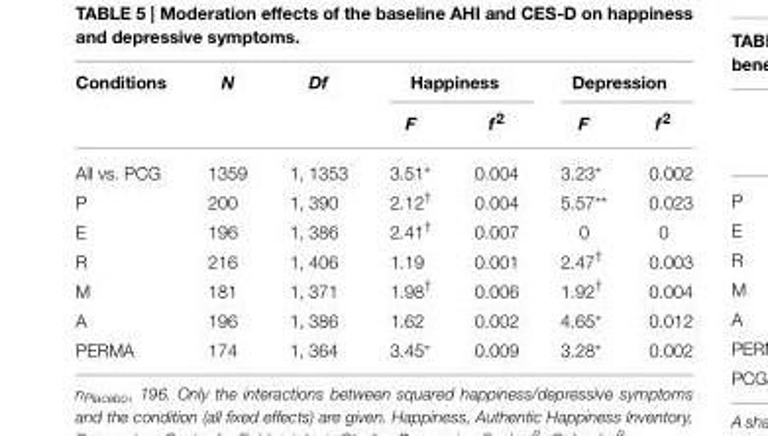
<table><thead><tr><td rowspan="2">Conditions</td><td rowspan="2">N</td><td rowspan="2">Df</td><td colspan="2">Happiness</td><td colspan="2">Depression</td></tr><tr><td>F</td><td>f<sup>2</sup></td><td>F</td><td>f<sup>2</sup></td></tr></thead><tbody><tr><td>All vs. PCG</td><td>1359</td><td>1, 1353</td><td>3.51*</td><td>0.004</td><td>3.23*</td><td>0.002</td></tr><tr><td>P</td><td>200</td><td>1, 390</td><td>2.12<sup>†</sup></td><td>0.004</td><td>5.57**</td><td>0.023</td></tr><tr><td>E</td><td>196</td><td>1, 386</td><td>2.41<sup>†</sup></td><td>0.007</td><td>0</td><td>0</td></tr><tr><td>R</td><td>216</td><td>1, 406</td><td>1.19</td><td>0.001</td><td>2.47<sup>†</sup></td><td>0.003</td></tr><tr><td>M</td><td>181</td><td>1, 371</td><td>1.98<sup>†</sup></td><td>0.006</td><td>1.92<sup>†</sup></td><td>0.004</td></tr><tr><td>A</td><td>196</td><td>1, 386</td><td>1.62</td><td>0.002</td><td>4.65*</td><td>0.012</td></tr><tr><td>PERMA</td><td>174</td><td>1, 364</td><td>3.45*</td><td>0.009</td><td>3.28*</td><td>0.002</td></tr></tbody></table>